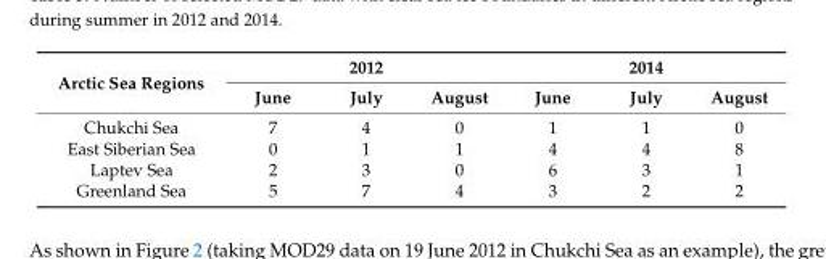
<table><thead><tr><td rowspan="2">Arctic Sea Regions</td><td colspan="3">2012</td><td colspan="3">2014</td></tr><tr><td>June</td><td>July</td><td>August</td><td>June</td><td>July</td><td>August</td></tr></thead><tbody><tr><td>Chukchi Sea</td><td>7</td><td>4</td><td>0</td><td>1</td><td>1</td><td>0</td></tr><tr><td>East Siberian Sea</td><td>0</td><td>1</td><td>1</td><td>4</td><td>4</td><td>8</td></tr><tr><td>Laptev Sea</td><td>2</td><td>3</td><td>0</td><td>6</td><td>3</td><td>1</td></tr><tr><td>Greenland Sea</td><td>5</td><td>7</td><td>4</td><td>3</td><td>2</td><td>2</td></tr></tbody></table>